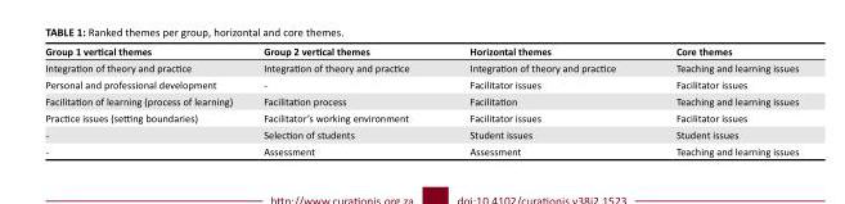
<table><thead><tr><td>Group 1 vertical themes</td><td>Group 2 vertical themes</td><td>Horizontal themes</td><td>Core themes</td></tr></thead><tbody><tr><td>Integration of theory and practice</td><td>Integration of theory and practice</td><td>Integration of theory and practice</td><td>Teaching and learning issues</td></tr><tr><td>Personal and professional development</td><td>-</td><td>Facilitator issues</td><td>Facilitator issues</td></tr><tr><td>Facilitation of learning (process of learning)</td><td>Facilitation process</td><td>Facilitation</td><td>Teaching and learning issues</td></tr><tr><td>Practice issues (setting boundaries)</td><td>Facilitator’s working environment</td><td>Facilitator issues</td><td>Facilitator issues</td></tr><tr><td>-</td><td>Selection of students</td><td>Student issues</td><td>Student issues</td></tr><tr><td>-</td><td>Assessment</td><td>Assessment</td><td>Teaching and learning issues</td></tr></tbody></table>